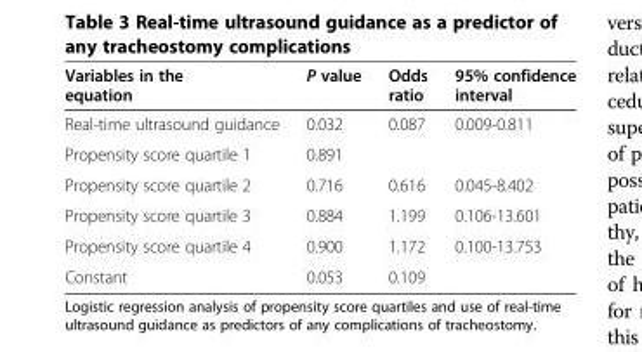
<table><thead><tr><td>Variables in the equation</td><td>P value</td><td>Odds ratio</td><td>95% confidence interval</td></tr></thead><tbody><tr><td>Real-time ultrasound guidance</td><td>0.032</td><td>0.087</td><td>0.009-0.811</td></tr><tr><td>Propensity score quartile 1</td><td>0.891</td><td></td><td></td></tr><tr><td>Propensity score quartile 2</td><td>0.716</td><td>0.616</td><td>0.045-8.402</td></tr><tr><td>Propensity score quartile 3</td><td>0.884</td><td>1.199</td><td>0.106-13.601</td></tr><tr><td>Propensity score quartile 4</td><td>0.900</td><td>1.172</td><td>0.100-13.753</td></tr><tr><td>Constant</td><td>0.053</td><td>0.109</td><td></td></tr></tbody></table>